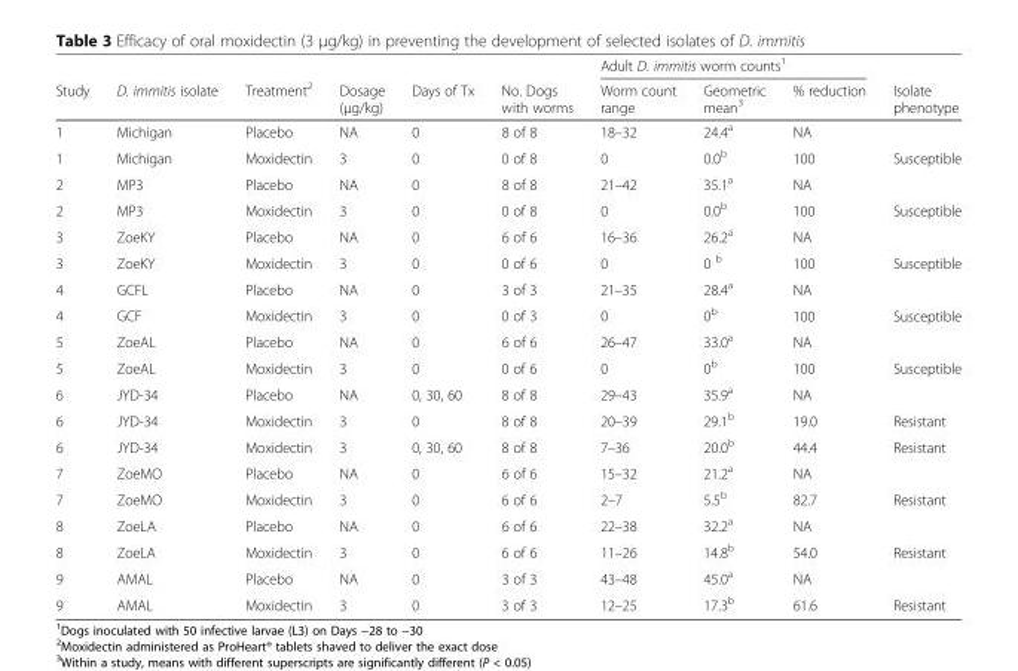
<table><thead><tr><td rowspan="2">Study</td><td rowspan="2">D. immitis isolate</td><td rowspan="2">Treatment<sup>2</sup></td><td rowspan="2">Dosage (μg/kg)</td><td rowspan="2">Days of Tx</td><td rowspan="2">No. Dogs with worms</td><td colspan="3">Adult D. immitis worm counts<sup>1</sup></td><td rowspan="2">Isolate phenotype</td></tr><tr><td>Worm count range</td><td>Geometric mean<sup>3</sup></td><td>% reduction</td></tr></thead><tbody><tr><td>1</td><td>Michigan</td><td>Placebo</td><td>NA</td><td>0</td><td>8 of 8</td><td>18–32</td><td>24.4<sup>a</sup></td><td>NA</td><td></td></tr><tr><td>1</td><td>Michigan</td><td>Moxidectin</td><td>3</td><td>0</td><td>0 of 8</td><td>0</td><td>0.0<sup>b</sup></td><td>100</td><td>Susceptible</td></tr><tr><td>2</td><td>MP3</td><td>Placebo</td><td>NA</td><td>0</td><td>8 of 8</td><td>21–42</td><td>35.1<sup>a</sup></td><td>NA</td><td></td></tr><tr><td>2</td><td>MP3</td><td>Moxidectin</td><td>3</td><td>0</td><td>0 of 8</td><td>0</td><td>0.0<sup>b</sup></td><td>100</td><td>Susceptible</td></tr><tr><td>3</td><td>ZoeKY</td><td>Placebo</td><td>NA</td><td>0</td><td>6 of 6</td><td>16–36</td><td>26.2<sup>a</sup></td><td>NA</td><td></td></tr><tr><td>3</td><td>ZoeKY</td><td>Moxidectin</td><td>3</td><td>0</td><td>0 of 6</td><td>0</td><td>0 <sup>b</sup></td><td>100</td><td>Susceptible</td></tr><tr><td>4</td><td>GCFL</td><td>Placebo</td><td>NA</td><td>0</td><td>3 of 3</td><td>21–35</td><td>28.4<sup>a</sup></td><td>NA</td><td></td></tr><tr><td>4</td><td>GCF</td><td>Moxidectin</td><td>3</td><td>0</td><td>0 of 3</td><td>0</td><td>0<sup>b</sup></td><td>100</td><td>Susceptible</td></tr><tr><td>5</td><td>ZoeAL</td><td>Placebo</td><td>NA</td><td>0</td><td>6 of 6</td><td>26–47</td><td>33.0<sup>a</sup></td><td>NA</td><td></td></tr><tr><td>5</td><td>ZoeAL</td><td>Moxidectin</td><td>3</td><td>0</td><td>0 of 6</td><td>0</td><td>0<sup>b</sup></td><td>100</td><td>Susceptible</td></tr><tr><td>6</td><td>JYD-34</td><td>Placebo</td><td>NA</td><td>0, 30, 60</td><td>8 of 8</td><td>29–43</td><td>35.9<sup>a</sup></td><td>NA</td><td></td></tr><tr><td>6</td><td>JYD-34</td><td>Moxidectin</td><td>3</td><td>0</td><td>8 of 8</td><td>20–39</td><td>29.1<sup>b</sup></td><td>19.0</td><td>Resistant</td></tr><tr><td>6</td><td>JYD-34</td><td>Moxidectin</td><td>3</td><td>0, 30, 60</td><td>8 of 8</td><td>7–36</td><td>20.0<sup>b</sup></td><td>44.4</td><td>Resistant</td></tr><tr><td>7</td><td>ZoeMO</td><td>Placebo</td><td>NA</td><td>0</td><td>6 of 6</td><td>15–32</td><td>21.2<sup>a</sup></td><td>NA</td><td></td></tr><tr><td>7</td><td>ZoeMO</td><td>Moxidectin</td><td>3</td><td>0</td><td>6 of 6</td><td>2–7</td><td>5.5<sup>b</sup></td><td>82.7</td><td>Resistant</td></tr><tr><td>8</td><td>ZoeLA</td><td>Placebo</td><td>NA</td><td>0</td><td>6 of 6</td><td>22–38</td><td>32.2<sup>a</sup></td><td>NA</td><td></td></tr><tr><td>8</td><td>ZoeLA</td><td>Moxidectin</td><td>3</td><td>0</td><td>6 of 6</td><td>11–26</td><td>14.8<sup>b</sup></td><td>54.0</td><td>Resistant</td></tr><tr><td>9</td><td>AMAL</td><td>Placebo</td><td>NA</td><td>0</td><td>3 of 3</td><td>43–48</td><td>45.0<sup>a</sup></td><td>NA</td><td></td></tr><tr><td>9</td><td>AMAL</td><td>Moxidectin</td><td>3</td><td>0</td><td>3 of 3</td><td>12–25</td><td>17.3<sup>b</sup></td><td>61.6</td><td>Resistant</td></tr></tbody></table>